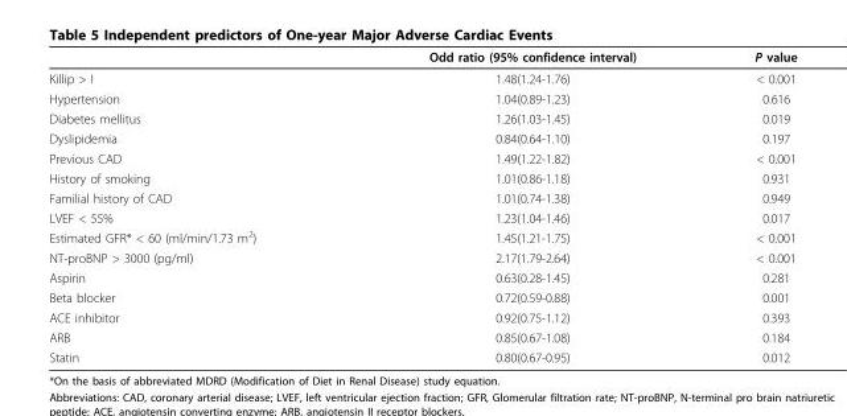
<table><thead><tr><td></td><td>Odd ratio (95% confidence interval)</td><td>P value</td></tr></thead><tbody><tr><td>Killip &gt; I</td><td>1.48(1.24-1.76)</td><td>&lt; 0.001</td></tr><tr><td>Hypertension</td><td>1.04(0.89-1.23)</td><td>0.616</td></tr><tr><td>Diabetes mellitus</td><td>1.26(1.03-1.45)</td><td>0.019</td></tr><tr><td>Dyslipidemia</td><td>0.84(0.64-1.10)</td><td>0.197</td></tr><tr><td>Previous CAD</td><td>1.49(1.22-1.82)</td><td>&lt; 0.001</td></tr><tr><td>History of smoking</td><td>1.01(0.86-1.18)</td><td>0.931</td></tr><tr><td>Familial history of CAD</td><td>1.01(0.74-1.38)</td><td>0.949</td></tr><tr><td>LVEF &lt; 55%</td><td>1.23(1.04-1.46)</td><td>0.017</td></tr><tr><td>Estimated GFR* &lt; 60 (ml/min/1.73 m<sup>2</sup>)</td><td>1.45(1.21-1.75)</td><td>&lt; 0.001</td></tr><tr><td>NT-proBNP &gt; 3000 (pg/ml)</td><td>2.17(1.79-2.64)</td><td>&lt; 0.001</td></tr><tr><td>Aspirin</td><td>0.63(0.28-1.45)</td><td>0.281</td></tr><tr><td>Beta blocker</td><td>0.72(0.59-0.88)</td><td>0.001</td></tr><tr><td>ACE inhibitor</td><td>0.92(0.75-1.12)</td><td>0.393</td></tr><tr><td>ARB</td><td>0.85(0.67-1.08)</td><td>0.184</td></tr><tr><td>Statin</td><td>0.80(0.67-0.95)</td><td>0.012</td></tr></tbody></table>